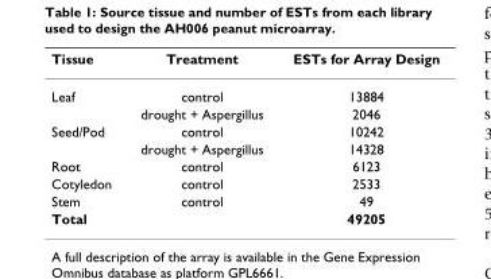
<table><thead><tr><td>Tissue</td><td>Treatment</td><td>ESTs for Array Design</td></tr></thead><tbody><tr><td rowspan="2">Leaf</td><td>control</td><td>13884</td></tr><tr><td>drought + Aspergillus</td><td>2046</td></tr><tr><td rowspan="2">Seed/Pod</td><td>control</td><td>10242</td></tr><tr><td>drought + Aspergillus</td><td>14328</td></tr><tr><td>Root</td><td>control</td><td>6123</td></tr><tr><td>Cotyledon</td><td>control</td><td>2533</td></tr><tr><td>Stem</td><td>control</td><td>49</td></tr><tr><td>Total</td><td></td><td>49205</td></tr></tbody></table>